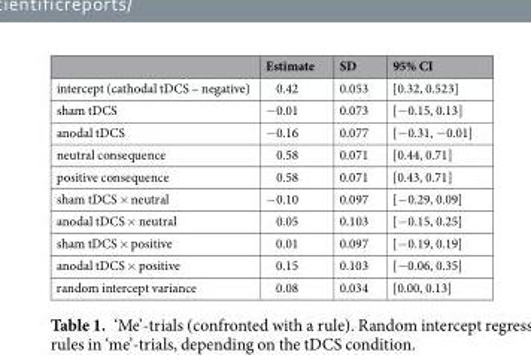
<table><thead><tr><td></td><td>Estimate</td><td>SD</td><td>95% CI</td></tr></thead><tbody><tr><td>intercept (cathodal tDCS – negative)</td><td>0.42</td><td>0.053</td><td>[0.32, 0.523]</td></tr><tr><td>sham tDCS</td><td>−0.01</td><td>0.073</td><td>[−0.15, 0.13]</td></tr><tr><td>anodal tDCS</td><td>−0.16</td><td>0.077</td><td>[−0.31, −0.01]</td></tr><tr><td>neutral consequence</td><td>0.58</td><td>0.071</td><td>[0.44, 0.71]</td></tr><tr><td>positive consequence</td><td>0.58</td><td>0.071</td><td>[0.43, 0.71]</td></tr><tr><td>sham tDCS × neutral</td><td>−0.10</td><td>0.097</td><td>[−0.29, 0.09]</td></tr><tr><td>anodal tDCS × neutral</td><td>0.05</td><td>0.103</td><td>[−0.15, 0.25]</td></tr><tr><td>sham tDCS × positive</td><td>0.01</td><td>0.097</td><td>[−0.19, 0.19]</td></tr><tr><td>anodal tDCS × positive</td><td>0.15</td><td>0.103</td><td>[−0.06, 0.35]</td></tr><tr><td>random intercept variance</td><td>0.08</td><td>0.034</td><td>[0.00, 0.13]</td></tr></tbody></table>